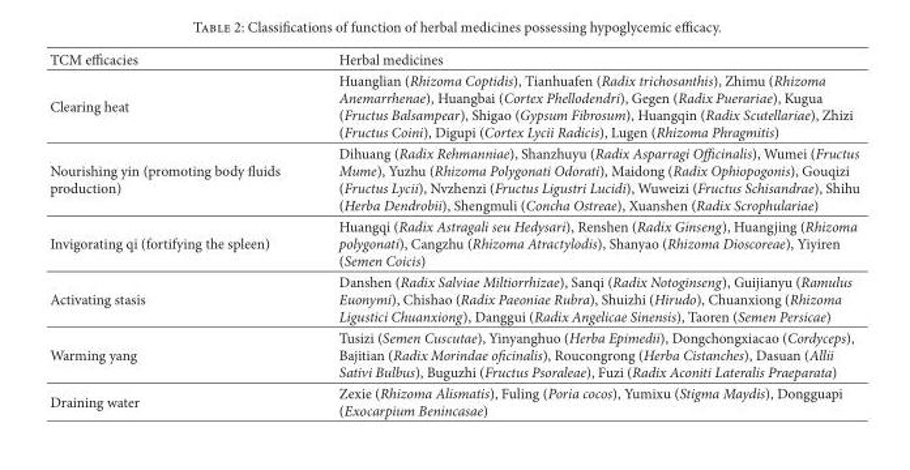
<table><thead><tr><td>TCM efficacies</td><td>Herbal medicines</td></tr></thead><tbody><tr><td>Clearing heat</td><td>Huanglian (Rhizoma Coptidis), Tianhuafen (Radix trichosanthis), Zhimu (Rhizoma Anemarrhenae), Huangbai (Cortex Phellodendri), Gegen (Radix Puerariae), Kugua (Fructus Balsampear), Shigao (Gypsum Fibrosum), Huangqin (Radix Scutellariae), Zhizi (Fructus Coini), Digupi (Cortex Lycii Radicis), Lugen (Rhizoma Phragmitis)</td></tr><tr><td>Nourishing yin (promoting body fluids production)</td><td>Dihuang (Radix Rehmanniae), Shanzhuyu (Radix Asparragi Officinalis), Wumei (Fructus Mume), Yuzhu (Rhizoma Polygonati Odorati), Maidong (Radix Ophiopogonis), Gouqizi (Fructus Lycii), Nvzhenzi (Fructus Ligustri Lucidi), Wuweizi (Fructus Schisandrae), Shihu (Herba Dendrobii), Shengmuli (Concha Ostreae), Xuanshen (Radix Scrophulariae)</td></tr><tr><td>Invigorating qi (fortifying the spleen)</td><td>Huangqi (Radix Astragali seu Hedysari), Renshen (Radix Ginseng), Huangjing (Rhizoma polygonati), Cangzhu (Rhizoma Atractylodis), Shanyao (Rhizoma Dioscoreae), Yiyiren (Semen Coicis)</td></tr><tr><td>Activating stasis</td><td>Danshen (Radix Salviae Miltiorrhizae), Sanqi (Radix Notoginseng), Guijianyu (Ramulus Euonymi), Chishao (Radix Paeoniae Rubra), Shuizhi (Hirudo), Chuanxiong (Rhizoma Ligustici Chuanxiong), Danggui (Radix Angelicae Sinensis), Taoren (Semen Persicae)</td></tr><tr><td>Warming yang</td><td>Tusizi (Semen Cuscutae), Yinyanghuo (Herba Epimedii), Dongchongxiacao (Cordyceps), Bajitian (Radix Morindae oficinalis), Roucongrong (Herba Cistanches), Dasuan (Allii Sativi Bulbus), Buguzhi (Fructus Psoraleae), Fuzi (Radix Aconiti Lateralis Praeparata)</td></tr><tr><td>Draining water</td><td>Zexie (Rhizoma Alismatis), Fuling (Poria cocos), Yumixu (Stigma Maydis), Dongguapi (Exocarpium Benincasae)</td></tr></tbody></table>